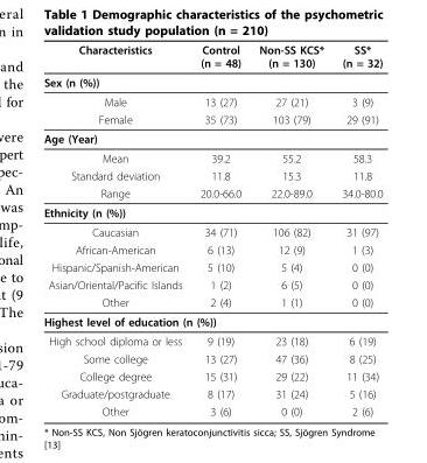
<table><thead><tr><td>Characteristics</td><td>Control (n = 48)</td><td>Non-SS KCS* (n = 130)</td><td>SS* (n = 32)</td></tr></thead><tbody><tr><td colspan="4">Sex (n (%))</td></tr><tr><td>Male</td><td>13 (27)</td><td>27 (21)</td><td>3 (9)</td></tr><tr><td>Female</td><td>35 (73)</td><td>103 (79)</td><td>29 (91)</td></tr><tr><td colspan="4">Age (Year)</td></tr><tr><td>Mean</td><td>39.2</td><td>55.2</td><td>58.3</td></tr><tr><td>Standard deviation</td><td>11.8</td><td>15.3</td><td>11.8</td></tr><tr><td>Range</td><td>20.0-66.0</td><td>22.0-89.0</td><td>34.0-80.0</td></tr><tr><td colspan="4">Ethnicity (n (%))</td></tr><tr><td>Caucasian</td><td>34 (71)</td><td>106 (82)</td><td>31 (97)</td></tr><tr><td>African-American</td><td>6 (13)</td><td>12 (9)</td><td>1 (3)</td></tr><tr><td>Hispanic/Spanish-American</td><td>5 (10)</td><td>5 (4)</td><td>0 (0)</td></tr><tr><td>Asian/Oriental/Pacific Islands</td><td>1 (2)</td><td>6 (5)</td><td>0 (0)</td></tr><tr><td>Other</td><td>2 (4)</td><td>1 (1)</td><td>0 (0)</td></tr><tr><td colspan="4">Highest level of education (n (%))</td></tr><tr><td>High school diploma or less</td><td>9 (19)</td><td>23 (18)</td><td>6 (19)</td></tr><tr><td>Some college</td><td>13 (27)</td><td>47 (36)</td><td>8 (25)</td></tr><tr><td>College degree</td><td>15 (31)</td><td>29 (22)</td><td>11 (34)</td></tr><tr><td>Graduate/postgraduate</td><td>8 (17)</td><td>31 (24)</td><td>5 (16)</td></tr><tr><td>Other</td><td>3 (6)</td><td>0 (0)</td><td>2 (6)</td></tr></tbody></table>